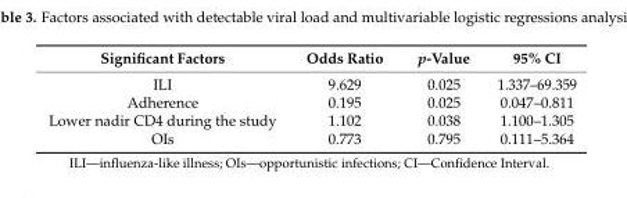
<table><thead><tr><td>Significant Factors</td><td>Odds Ratio</td><td>p-Value</td><td>95% CI</td></tr></thead><tbody><tr><td>ILI</td><td>9.629</td><td>0.025</td><td>1.337–69.359</td></tr><tr><td>Adherence</td><td>0.195</td><td>0.025</td><td>0.047–0.811</td></tr><tr><td>Lower nadir CD4 during the study</td><td>1.102</td><td>0.038</td><td>1.100–1.305</td></tr><tr><td>OIs</td><td>0.773</td><td>0.795</td><td>0.111–5.364</td></tr></tbody></table>